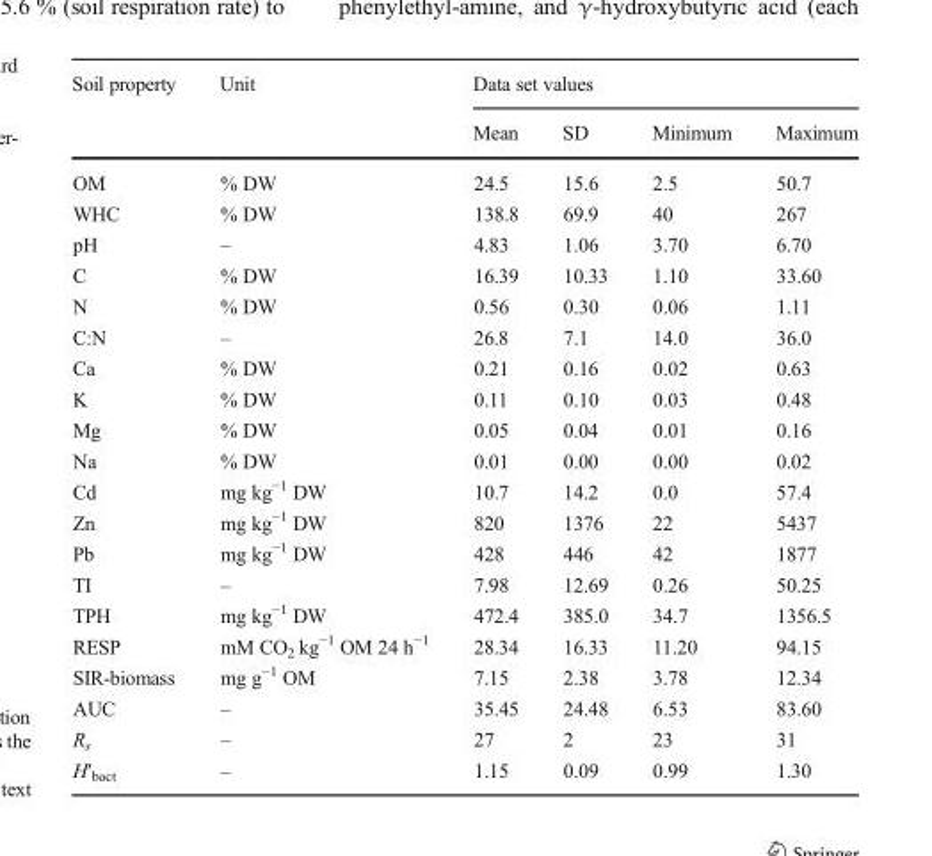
<table><thead><tr><td rowspan="2">Soil property</td><td rowspan="2">Unit</td><td colspan="4">Data set values</td></tr><tr><td>Mean</td><td>SD</td><td>Minimum</td><td>Maximum</td></tr></thead><tbody><tr><td>OM</td><td>% DW</td><td>24.5</td><td>15.6</td><td>2.5</td><td>50.7</td></tr><tr><td>WHC</td><td>% DW</td><td>138.8</td><td>69.9</td><td>40</td><td>267</td></tr><tr><td>pH</td><td>–</td><td>4.83</td><td>1.06</td><td>3.70</td><td>6.70</td></tr><tr><td>C</td><td>% DW</td><td>16.39</td><td>10.33</td><td>1.10</td><td>33.60</td></tr><tr><td>N</td><td>% DW</td><td>0.56</td><td>0.30</td><td>0.06</td><td>1.11</td></tr><tr><td>C:N</td><td>–</td><td>26.8</td><td>7.1</td><td>14.0</td><td>36.0</td></tr><tr><td>Ca</td><td>% DW</td><td>0.21</td><td>0.16</td><td>0.02</td><td>0.63</td></tr><tr><td>K</td><td>% DW</td><td>0.11</td><td>0.10</td><td>0.03</td><td>0.48</td></tr><tr><td>Mg</td><td>% DW</td><td>0.05</td><td>0.04</td><td>0.01</td><td>0.16</td></tr><tr><td>Na</td><td>% DW</td><td>0.01</td><td>0.00</td><td>0.00</td><td>0.02</td></tr><tr><td>Cd</td><td>mg kg<sup>−1</sup> DW</td><td>10.7</td><td>14.2</td><td>0.0</td><td>57.4</td></tr><tr><td>Zn</td><td>mg kg<sup>−1</sup> DW</td><td>820</td><td>1376</td><td>22</td><td>5437</td></tr><tr><td>Pb</td><td>mg kg<sup>−1</sup> DW</td><td>428</td><td>446</td><td>42</td><td>1877</td></tr><tr><td>TI</td><td>–</td><td>7.98</td><td>12.69</td><td>0.26</td><td>50.25</td></tr><tr><td>TPH</td><td>mg kg<sup>−1</sup> DW</td><td>472.4</td><td>385.0</td><td>34.7</td><td>1356.5</td></tr><tr><td>RESP</td><td>mM CO<sub>2</sub> kg<sup>−1</sup> OM 24 h<sup>−1</sup></td><td>28.34</td><td>16.33</td><td>11.20</td><td>94.15</td></tr><tr><td>SIR-biomass</td><td>mg g<sup>−1</sup> OM</td><td>7.15</td><td>2.38</td><td>3.78</td><td>12.34</td></tr><tr><td>AUC</td><td>–</td><td>35.45</td><td>24.48</td><td>6.53</td><td>83.60</td></tr><tr><td>R<sub>s</sub></td><td>–</td><td>27</td><td>2</td><td>23</td><td>31</td></tr><tr><td>H′<sub>bact</sub></td><td>–</td><td>1.15</td><td>0.09</td><td>0.99</td><td>1.30</td></tr></tbody></table>